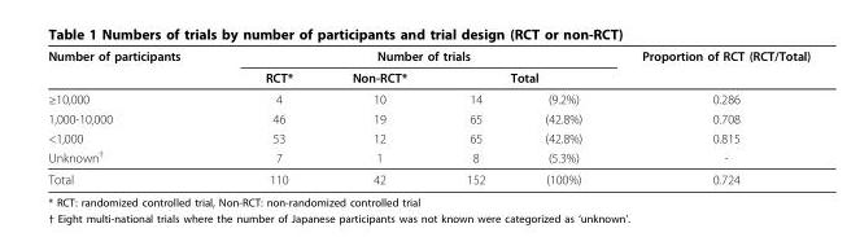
<table><thead><tr><td rowspan="3">Number of participants ≥10,000</td><td colspan="4">Number of trials</td><td rowspan="3">Proportion of RCT (RCT/Total) 0.286</td></tr><tr><td rowspan="2">RCT* 4</td><td rowspan="2">Non-RCT* 10</td><td colspan="2">Total</td></tr><tr><td>14</td><td>(9.2%)</td></tr></thead><tbody><tr><td>1,000-10,000</td><td>46</td><td>19</td><td>65</td><td>(42.8%)</td><td>0.708</td></tr><tr><td>&lt;1,000</td><td>53</td><td>12</td><td>65</td><td>(42.8%)</td><td>0.815</td></tr><tr><td>Unknown<sup>†</sup></td><td>7</td><td>1</td><td>8</td><td>(5.3%)</td><td>-</td></tr><tr><td>Total</td><td>110</td><td>42</td><td>152</td><td>(100%)</td><td>0.724</td></tr></tbody></table>